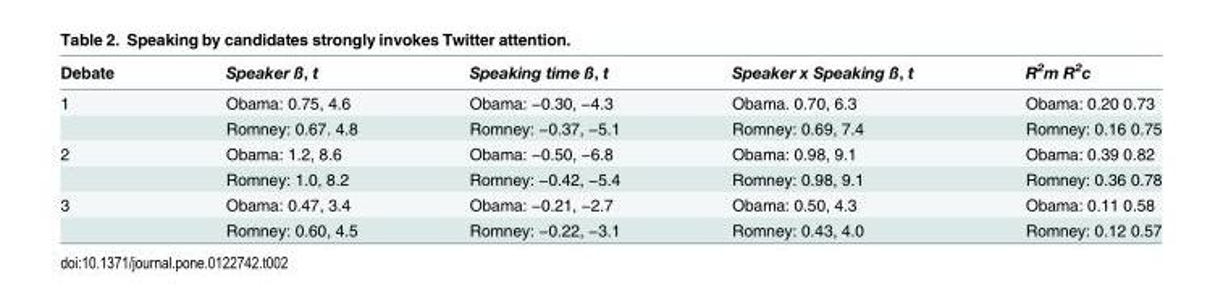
<table><thead><tr><td>Debate</td><td>Speaker ß, t</td><td>Speaking time ß, t</td><td>Speaker x Speaking ß, t</td><td>R<sup>2</sup>m R<sup>2</sup>c</td></tr></thead><tbody><tr><td rowspan="2">1</td><td>Obama: 0.75, 4.6</td><td>Obama: −0.30, −4.3</td><td>Obama. 0.70, 6.3</td><td>Obama: 0.20 0.73</td></tr><tr><td>Romney: 0.67. 4.8</td><td>Romney: −0.37, −5.1</td><td>Romney: 0.69, 7.4</td><td>Romney: 0.16 0.75</td></tr><tr><td rowspan="2">2</td><td>Obama: 1.2, 8.6</td><td>Obama: −0.50, −6.8</td><td>Obama: 0.98, 9.1</td><td>Obama: 0.39 0.82</td></tr><tr><td>Romney: 1.0, 8.2</td><td>Romney: −0.42, −5.4</td><td>Romney: 0.98, 9.1</td><td>Romney: 0.36 0.78</td></tr><tr><td rowspan="2">3</td><td>Obama: 0.47, 3.4</td><td>Obama: −0.21, −2.7</td><td>Obama: 0.50, 4.3</td><td>Obama: 0.11 0.58</td></tr><tr><td>Romney: 0.60, 4.5</td><td>Romney: −0.22, −3.1</td><td>Romney: 0.43, 4.0</td><td>Romney: 0.12 0.57</td></tr></tbody></table>